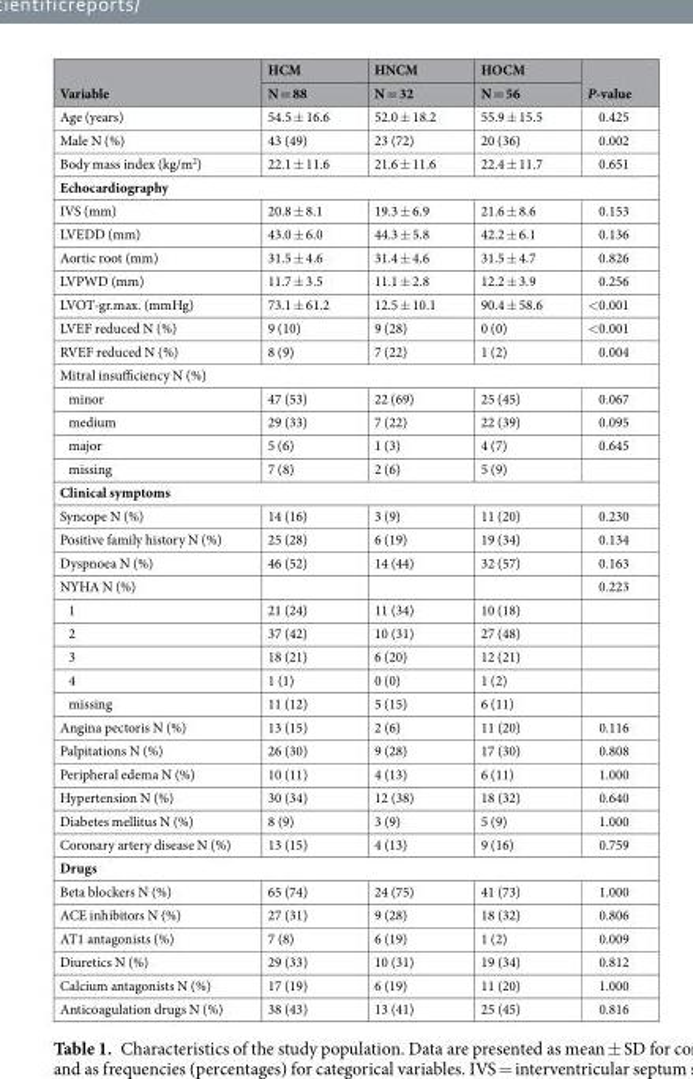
<table><thead><tr><td rowspan="2">Variable</td><td rowspan="2">HCM N = 88</td><td rowspan="2">HNCM N = 32</td><td rowspan="2">HOCM N = 56</td><td rowspan="2">P-value</td></tr><tr></tr></thead><tbody><tr><td>Age (years)</td><td>54.5 ± 16.6</td><td>52.0 ± 18.2</td><td>55.9 ± 15.5</td><td>0.425</td></tr><tr><td>Male N (%)</td><td>43 (49)</td><td>23 (72)</td><td>20 (36)</td><td>0.002</td></tr><tr><td>Body mass index (kg/m<sup>2</sup>)</td><td>22.1 ± 11.6</td><td>21.6 ± 11.6</td><td>22.4 ± 11.7</td><td>0.651</td></tr><tr><td colspan="5">Echocardiography</td></tr><tr><td>IVS (mm)</td><td>20.8 ± 8.1</td><td>19.3 ± 6.9</td><td>21.6 ± 8.6</td><td>0.153</td></tr><tr><td>LVEDD (mm)</td><td>43.0 ± 6.0</td><td>44.3 ± 5.8</td><td>42.2 ± 6.1</td><td>0.136</td></tr><tr><td>Aortic root (mm)</td><td>31.5 ± 4.6</td><td>31.4 ± 4.6</td><td>31.5 ± 4.7</td><td>0.826</td></tr><tr><td>LVPWD (mm)</td><td>11.7 ± 3.5</td><td>11.1 ± 2.8</td><td>12.2 ± 3.9</td><td>0.256</td></tr><tr><td>LVOT-gr.max. (mmHg)</td><td>73.1 ± 61.2</td><td>12.5 ± 10.1</td><td>90.4 ± 58.6</td><td>&lt;0.001</td></tr><tr><td>LVEF reduced N (%)</td><td>9 (10)</td><td>9 (28)</td><td>0 (0)</td><td>&lt;0.001</td></tr><tr><td>RVEF reduced N (%)</td><td>8 (9)</td><td>7 (22)</td><td>1 (2)</td><td>0.004</td></tr><tr><td colspan="5">Mitral insufficiency N (%)</td></tr><tr><td>minor</td><td>47 (53)</td><td>22 (69)</td><td>25 (45)</td><td>0.067</td></tr><tr><td>medium</td><td>29 (33)</td><td>7 (22)</td><td>22 (39)</td><td>0.095</td></tr><tr><td>major</td><td>5 (6)</td><td>1 (3)</td><td>4 (7)</td><td>0.645</td></tr><tr><td>missing</td><td>7 (8)</td><td>2 (6)</td><td>5 (9)</td><td></td></tr><tr><td colspan="5">Clinical symptoms</td></tr><tr><td>Syncope N (%)</td><td>14 (16)</td><td>3 (9)</td><td>11 (20)</td><td>0.230</td></tr><tr><td>Positive family history N (%)</td><td>25 (28)</td><td>6 (19)</td><td>19 (34)</td><td>0.134</td></tr><tr><td>Dyspnoea N (%)</td><td>46 (52)</td><td>14 (44)</td><td>32 (57)</td><td>0.163</td></tr><tr><td>NYHA N (%)</td><td></td><td></td><td></td><td>0.223</td></tr><tr><td>1</td><td>21 (24)</td><td>11 (34)</td><td>10 (18)</td><td></td></tr><tr><td>2</td><td>37 (42)</td><td>10 (31)</td><td>27 (48)</td><td></td></tr><tr><td>3</td><td>18 (21)</td><td>6 (20)</td><td>12 (21)</td><td></td></tr><tr><td>4</td><td>1 (1)</td><td>0 (0)</td><td>1 (2)</td><td></td></tr><tr><td>missing</td><td>11 (12)</td><td>5 (15)</td><td>6 (11)</td><td></td></tr><tr><td>Angina pectoris N (%)</td><td>13 (15)</td><td>2 (6)</td><td>11 (20)</td><td>0.116</td></tr><tr><td>Palpitations N (%)</td><td>26 (30)</td><td>9 (28)</td><td>17 (30)</td><td>0.808</td></tr><tr><td>Peripheral edema N (%)</td><td>10 (11)</td><td>4 (13)</td><td>6 (11)</td><td>1.000</td></tr><tr><td>Hypertension N (%)</td><td>30 (34)</td><td>12 (38)</td><td>18 (32)</td><td>0.640</td></tr><tr><td>Diabetes mellitus N (%)</td><td>8 (9)</td><td>3 (9)</td><td>5 (9)</td><td>1.000</td></tr><tr><td>Coronary artery disease N (%)</td><td>13 (15)</td><td>4 (13)</td><td>9 (16)</td><td>0.759</td></tr><tr><td colspan="5">Drugs</td></tr><tr><td>Beta blockers N (%)</td><td>65 (74)</td><td>24 (75)</td><td>41 (73)</td><td>1.000</td></tr><tr><td>ACE inhibitors N (%)</td><td>27 (31)</td><td>9 (28)</td><td>18 (32)</td><td>0.806</td></tr><tr><td>AT1 antagonists (%)</td><td>7 (8)</td><td>6 (19)</td><td>1 (2)</td><td>0.009</td></tr><tr><td>Diuretics N (%)</td><td>29 (33)</td><td>10 (31)</td><td>19 (34)</td><td>0.812</td></tr><tr><td>Calcium antagonists N (%)</td><td>17 (19)</td><td>6 (19)</td><td>11 (20)</td><td>1.000</td></tr><tr><td>Anticoagulation drugs N (%)</td><td>38 (43)</td><td>13 (41)</td><td>25 (45)</td><td>0.816</td></tr></tbody></table>